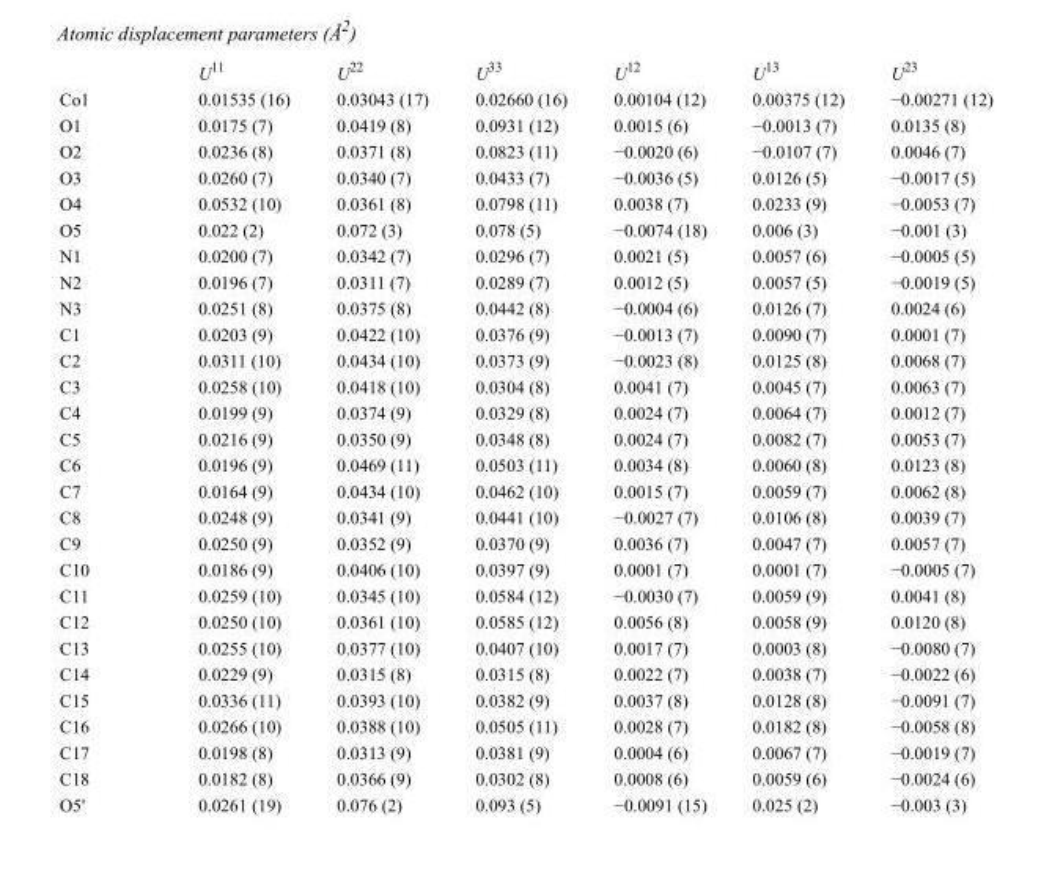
<table><thead><tr><td></td><td>U<sup>11</sup></td><td>U<sup>22</sup></td><td>U<sup>33</sup></td><td>U<sup>12</sup></td><td>U<sup>13</sup></td><td>U<sup>23</sup></td></tr></thead><tbody><tr><td>Co1</td><td>0.01535 (16)</td><td>0.03043 (17)</td><td>0.02660 (16)</td><td>0.00104 (12)</td><td>0.00375 (12)</td><td>−0.00271 (12)</td></tr><tr><td>O1</td><td>0.0175 (7)</td><td>0.0419 (8)</td><td>0.0931 (12)</td><td>0.0015 (6)</td><td>−0.0013 (7)</td><td>0.0135 (8)</td></tr><tr><td>O2</td><td>0.0236 (8)</td><td>0.0371 (8)</td><td>0.0823 (11)</td><td>−0.0020 (6)</td><td>−0.0107 (7)</td><td>0.0046 (7)</td></tr><tr><td>O3</td><td>0.0260 (7)</td><td>0.0340 (7)</td><td>0.0433 (7)</td><td>−0.0036 (5)</td><td>0.0126 (5)</td><td>−0.0017 (5)</td></tr><tr><td>O4</td><td>0.0532 (10)</td><td>0.0361 (8)</td><td>0.0798 (11)</td><td>0.0038 (7)</td><td>0.0233 (9)</td><td>−0.0053 (7)</td></tr><tr><td>O5</td><td>0.022 (2)</td><td>0.072 (3)</td><td>0.078 (5)</td><td>−0.0074 (18)</td><td>0.006 (3)</td><td>−0.001 (3)</td></tr><tr><td>N1</td><td>0.0200 (7)</td><td>0.0342 (7)</td><td>0.0296 (7)</td><td>0.0021 (5)</td><td>0.0057 (6)</td><td>−0.0005 (5)</td></tr><tr><td>N2</td><td>0.0196 (7)</td><td>0.0311 (7)</td><td>0.0289 (7)</td><td>0.0012 (5)</td><td>0.0057 (5)</td><td>−0.0019 (5)</td></tr><tr><td>N3</td><td>0.0251 (8)</td><td>0.0375 (8)</td><td>0.0442 (8)</td><td>−0.0004 (6)</td><td>0.0126 (7)</td><td>0.0024 (6)</td></tr><tr><td>C1</td><td>0.0203 (9)</td><td>0.0422 (10)</td><td>0.0376 (9)</td><td>−0.0013 (7)</td><td>0.0090 (7)</td><td>0.0001 (7)</td></tr><tr><td>C2</td><td>0.0311 (10)</td><td>0.0434 (10)</td><td>0.0373 (9)</td><td>−0.0023 (8)</td><td>0.0125 (8)</td><td>0.0068 (7)</td></tr><tr><td>C3</td><td>0.0258 (10)</td><td>0.0418 (10)</td><td>0.0304 (8)</td><td>0.0041 (7)</td><td>0.0045 (7)</td><td>0.0063 (7)</td></tr><tr><td>C4</td><td>0.0199 (9)</td><td>0.0374 (9)</td><td>0.0329 (8)</td><td>0.0024 (7)</td><td>0.0064 (7)</td><td>0.0012 (7)</td></tr><tr><td>C5</td><td>0.0216 (9)</td><td>0.0350 (9)</td><td>0.0348 (8)</td><td>0.0024 (7)</td><td>0.0082 (7)</td><td>0.0053 (7)</td></tr><tr><td>C6</td><td>0.0196 (9)</td><td>0.0469 (11)</td><td>0.0503 (11)</td><td>0.0034 (8)</td><td>0.0060 (8)</td><td>0.0123 (8)</td></tr><tr><td>C7</td><td>0.0164 (9)</td><td>0.0434 (10)</td><td>0.0462 (10)</td><td>0.0015 (7)</td><td>0.0059 (7)</td><td>0.0062 (8)</td></tr><tr><td>C8</td><td>0.0248 (9)</td><td>0.0341 (9)</td><td>0.0441 (10)</td><td>−0.0027 (7)</td><td>0.0106 (8)</td><td>0.0039 (7)</td></tr><tr><td>C9</td><td>0.0250 (9)</td><td>0.0352 (9)</td><td>0.0370 (9)</td><td>0.0036 (7)</td><td>0.0047 (7)</td><td>0.0057 (7)</td></tr><tr><td>C10</td><td>0.0186 (9)</td><td>0.0406 (10)</td><td>0.0397 (9)</td><td>0.0001 (7)</td><td>0.0001 (7)</td><td>−0.0005 (7)</td></tr><tr><td>C11</td><td>0.0259 (10)</td><td>0.0345 (10)</td><td>0.0584 (12)</td><td>−0.0030 (7)</td><td>0.0059 (9)</td><td>0.0041 (8)</td></tr><tr><td>C12</td><td>0.0250 (10)</td><td>0.0361 (10)</td><td>0.0585 (12)</td><td>0.0056 (8)</td><td>0.0058 (9)</td><td>0.0120 (8)</td></tr><tr><td>C13</td><td>0.0255 (10)</td><td>0.0377 (10)</td><td>0.0407 (10)</td><td>0.0017 (7)</td><td>0.0003 (8)</td><td>−0.0080 (7)</td></tr><tr><td>C14</td><td>0.0229 (9)</td><td>0.0315 (8)</td><td>0.0315 (8)</td><td>0.0022 (7)</td><td>0.0038 (7)</td><td>−0.0022 (6)</td></tr><tr><td>C15</td><td>0.0336 (11)</td><td>0.0393 (10)</td><td>0.0382 (9)</td><td>0.0037 (8)</td><td>0.0128 (8)</td><td>−0.0091 (7)</td></tr><tr><td>C16</td><td>0.0266 (10)</td><td>0.0388 (10)</td><td>0.0505 (11)</td><td>0.0028 (7)</td><td>0.0182 (8)</td><td>−0.0058 (8)</td></tr><tr><td>C17</td><td>0.0198 (8)</td><td>0.0313 (9)</td><td>0.0381 (9)</td><td>0.0004 (6)</td><td>0.0067 (7)</td><td>−0.0019 (7)</td></tr><tr><td>C18</td><td>0.0182 (8)</td><td>0.0366 (9)</td><td>0.0302 (8)</td><td>0.0008 (6)</td><td>0.0059 (6)</td><td>−0.0024 (6)</td></tr><tr><td>O5&#x27;</td><td>0.0261 (19)</td><td>0.076 (2)</td><td>0.093 (5)</td><td>−0.0091 (15)</td><td>0.025 (2)</td><td>−0.003 (3)</td></tr></tbody></table>